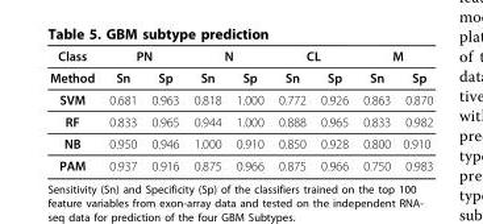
<table><thead><tr><td rowspan="2">Class Method</td><td colspan="2">PN</td><td colspan="2">N</td><td colspan="2">CL</td><td colspan="2">M</td></tr><tr><td>Sn</td><td>Sp</td><td>Sn</td><td>Sp</td><td>Sn</td><td>Sp</td><td>Sn</td><td>Sp</td></tr></thead><tbody><tr><td>SVM</td><td>0.681</td><td>0.963</td><td>0.818</td><td>1.000</td><td>0.772</td><td>0.926</td><td>0.863</td><td>0.870</td></tr><tr><td>RF</td><td>0.833</td><td>0.965</td><td>0.944</td><td>1.000</td><td>0.888</td><td>0.965</td><td>0.833</td><td>0.982</td></tr><tr><td>NB</td><td>0.950</td><td>0.946</td><td>1.000</td><td>0.910</td><td>0.850</td><td>0.928</td><td>0.800</td><td>0.910</td></tr><tr><td>PAM</td><td>0.937</td><td>0.916</td><td>0.875</td><td>0.966</td><td>0.875</td><td>0.966</td><td>0.750</td><td>0.983</td></tr></tbody></table>